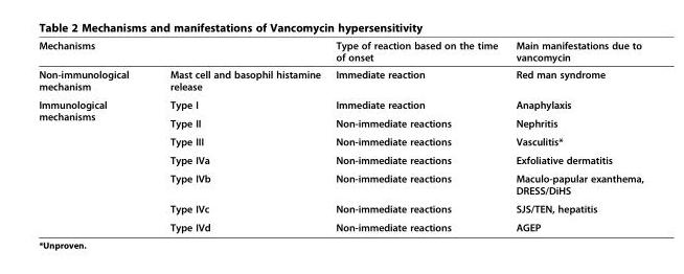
<table><thead><tr><td colspan="2">Mechanisms</td><td rowspan="2">Type of reaction based on the time of onset Immediate reaction</td><td rowspan="2">Main manifestations due to vancomycin Red man syndrome</td></tr><tr><td>Non-immunological mechanism</td><td>Mast cell and basophil histamine release</td></tr></thead><tbody><tr><td rowspan="7">Immunological mechanisms</td><td>Type I</td><td>Immediate reaction</td><td>Anaphylaxis</td></tr><tr><td>Type II</td><td>Non-immediate reactions</td><td>Nephritis</td></tr><tr><td>Type III</td><td>Non-immediate reactions</td><td>Vasculitis*</td></tr><tr><td>Type IVa</td><td>Non-immediate reactions</td><td>Exfoliative dermatitis</td></tr><tr><td>Type IVb</td><td>Non-immediate reactions</td><td>Maculo-papular exanthema, DRESS/DiHS</td></tr><tr><td>Type IVc</td><td>Non-immediate reactions</td><td>SJS/TEN, hepatitis</td></tr><tr><td>Type IVd</td><td>Non-immediate reactions</td><td>AGEP</td></tr></tbody></table>